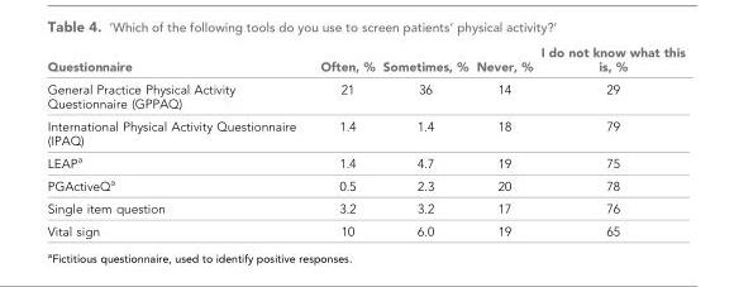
<table><thead><tr><td>Questionnaire</td><td>Often, %</td><td>Sometimes, %</td><td>Never, %</td><td>I do not know what this is, %</td></tr></thead><tbody><tr><td>General Practice Physical Activity Questionnaire (GPPAQ)</td><td>21</td><td>36</td><td>14</td><td>29</td></tr><tr><td>International Physical Activity Questionnaire (IPAQ)</td><td>1.4</td><td>1.4</td><td>18</td><td>79</td></tr><tr><td>LEAP<sup>a</sup></td><td>1.4</td><td>4.7</td><td>19</td><td>75</td></tr><tr><td>PGActiveQ<sup>a</sup></td><td>0.5</td><td>2.3</td><td>20</td><td>78</td></tr><tr><td>Single item question</td><td>3.2</td><td>3.2</td><td>17</td><td>76</td></tr><tr><td>Vital sign</td><td>10</td><td>6.0</td><td>19</td><td>65</td></tr></tbody></table>